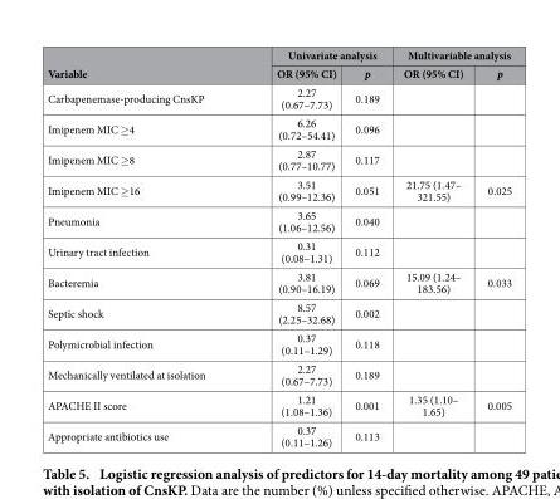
<table><thead><tr><td rowspan="2">Variable</td><td colspan="2">Univariate analysis</td><td colspan="2">Multivariable analysis</td></tr><tr><td>OR (95% CI)</td><td>p</td><td>OR (95% CI)</td><td>p</td></tr></thead><tbody><tr><td>Carbapenemase-producing CnsKP</td><td>2.27 (0.67–7.73)</td><td>0.189</td><td></td><td></td></tr><tr><td>Imipenem MIC ≥ 4</td><td>6.26 (0.72–54.41)</td><td>0.096</td><td></td><td></td></tr><tr><td>Imipenem MIC ≥ 8</td><td>2.87 (0.77–10.77)</td><td>0.117</td><td></td><td></td></tr><tr><td>Imipenem MIC ≥ 16</td><td>3.51 (0.99–12.36)</td><td>0.051</td><td>21.75 (1.47– 321.55)</td><td>0.025</td></tr><tr><td>Pneumonia</td><td>3.65 (1.06–12.56)</td><td>0.040</td><td></td><td></td></tr><tr><td>Urinary tract infection</td><td>0.31 (0.08–1.31)</td><td>0.112</td><td></td><td></td></tr><tr><td>Bacteremia</td><td>3.81 (0.90–16.19)</td><td>0.069</td><td>15.09 (1.24– 183.56)</td><td>0.033</td></tr><tr><td>Septic shock</td><td>8.57 (2.25–32.68)</td><td>0.002</td><td></td><td></td></tr><tr><td>Polymicrobial infection</td><td>0.37 (0.11–1.29)</td><td>0.118</td><td></td><td></td></tr><tr><td>Mechanically ventilated at isolation</td><td>2.27 (0.67–7.73)</td><td>0.189</td><td></td><td></td></tr><tr><td>APACHE II score</td><td>1.21 (1.08–1.36)</td><td>0.001</td><td>1.35 (1.10– 1.65)</td><td>0.005</td></tr><tr><td>Appropriate antibiotics use</td><td>0.37 (0.11–1.26)</td><td>0.113</td><td></td><td></td></tr></tbody></table>